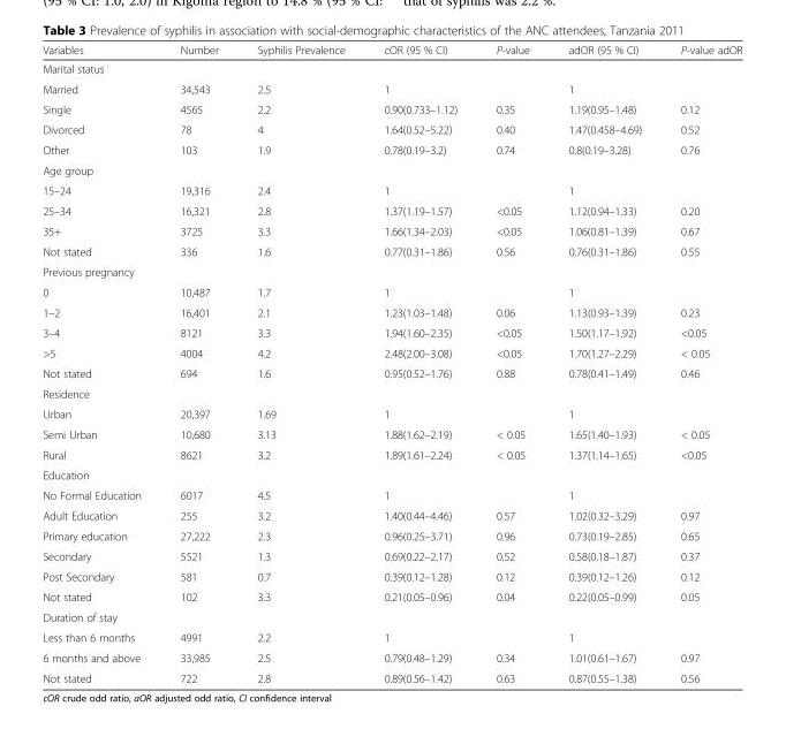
<table><thead><tr><td>Variables</td><td>Number</td><td>Syphilis Prevalence</td><td>cOR (95 % CI)</td><td>P-value</td><td>adOR (95 % CI)</td><td>P-value adOR</td></tr></thead><tbody><tr><td colspan="7">Marital status</td></tr><tr><td>Married</td><td>34,543</td><td>2.5</td><td>1</td><td></td><td>1</td><td></td></tr><tr><td>Single</td><td>4565</td><td>2.2</td><td>0.90(0.733–1.12)</td><td>0.35</td><td>1.19(0.95–1.48)</td><td>0.12</td></tr><tr><td>Divorced</td><td>78</td><td>4</td><td>1.64(0.52–5.22)</td><td>0.40</td><td>1.47(0.458–4.69)</td><td>0.52</td></tr><tr><td>Other</td><td>103</td><td>1.9</td><td>0.78(0.19–3.2)</td><td>0.74</td><td>0.8(0.19–3.28)</td><td>0.76</td></tr><tr><td colspan="7">Age group</td></tr><tr><td>15–24</td><td>19,316</td><td>2.4</td><td>1</td><td></td><td>1</td><td></td></tr><tr><td>25–34</td><td>16,321</td><td>2.8</td><td>1.37(1.19–1.57)</td><td>&lt;0.05</td><td>1.12(0.94–1.33)</td><td>0.20</td></tr><tr><td>35+</td><td>3725</td><td>3.3</td><td>1.66(1.34–2.03)</td><td>&lt;0.05</td><td>1.06(0.81–1.39)</td><td>0.67</td></tr><tr><td>Not stated</td><td>336</td><td>1.6</td><td>0.77(0.31–1.86)</td><td>0.56</td><td>0.76(0.31–1.86)</td><td>0.55</td></tr><tr><td colspan="7">Previous pregnancy</td></tr><tr><td>0</td><td>10,487</td><td>1.7</td><td>1</td><td></td><td>1</td><td></td></tr><tr><td>1–2</td><td>16,401</td><td>2.1</td><td>1.23(1.03–1.48)</td><td>0.06</td><td>1.13(0.93–1.39)</td><td>0.23</td></tr><tr><td>3–4</td><td>8121</td><td>3.3</td><td>1.94(1.60–2.35)</td><td>&lt;0.05</td><td>1.50(1.17–1.92)</td><td>&lt;0.05</td></tr><tr><td>&gt;5</td><td>4004</td><td>4.2</td><td>2.48(2.00–3.08)</td><td>&lt;0.05</td><td>1.70(1.27–2.29)</td><td>&lt; 0.05</td></tr><tr><td>Not stated</td><td>694</td><td>1.6</td><td>0.95(0.52–1.76)</td><td>0.88</td><td>0.78(0.41–1.49)</td><td>0.46</td></tr><tr><td colspan="7">Residence</td></tr><tr><td>Urban</td><td>20,397</td><td>1.69</td><td>1</td><td></td><td>1</td><td></td></tr><tr><td>Semi Urban</td><td>10,680</td><td>3.13</td><td>1.88(1.62–2.19)</td><td>&lt; 0.05</td><td>1.65(1.40–1.93)</td><td>&lt; 0.05</td></tr><tr><td>Rural</td><td>8621</td><td>3.2</td><td>1.89(1.61–2.24)</td><td>&lt; 0.05</td><td>1.37(1.14–1.65)</td><td>&lt;0.05</td></tr><tr><td colspan="7">Education</td></tr><tr><td>No Formal Education</td><td>6017</td><td>4.5</td><td>1</td><td></td><td>1</td><td></td></tr><tr><td>Adult Education</td><td>255</td><td>3.2</td><td>1.40(0.44–4.46)</td><td>0.57</td><td>1.02(0.32–3.29)</td><td>0.97</td></tr><tr><td>Primary education</td><td>27,222</td><td>2.3</td><td>0.96(0.25–3.71)</td><td>0.96</td><td>0.73(0.19–2.85)</td><td>0.65</td></tr><tr><td>Secondary</td><td>5521</td><td>1.3</td><td>0.69(0.22–2.17)</td><td>0.52</td><td>0.58(0.18–1.87)</td><td>0.37</td></tr><tr><td>Post Secondary</td><td>581</td><td>0.7</td><td>0.39(0.12–1.28)</td><td>0.12</td><td>0.39(0.12–1.26)</td><td>0.12</td></tr><tr><td>Not stated</td><td>102</td><td>3.3</td><td>0.21(0.05–0.96)</td><td>0.04</td><td>0.22(0.05–0.99)</td><td>0.05</td></tr><tr><td colspan="7">Duration of stay</td></tr><tr><td>Less than 6 months</td><td>4991</td><td>2.2</td><td>1</td><td></td><td>1</td><td></td></tr><tr><td>6 months and above</td><td>33,985</td><td>2.5</td><td>0.79(0.48–1.29)</td><td>0.34</td><td>1.01(0.61–1.67)</td><td>0.97</td></tr><tr><td>Not stated</td><td>722</td><td>2.8</td><td>0.89(0.56–1.42)</td><td>0.63</td><td>0.87(0.55–1.38)</td><td>0.56</td></tr></tbody></table>